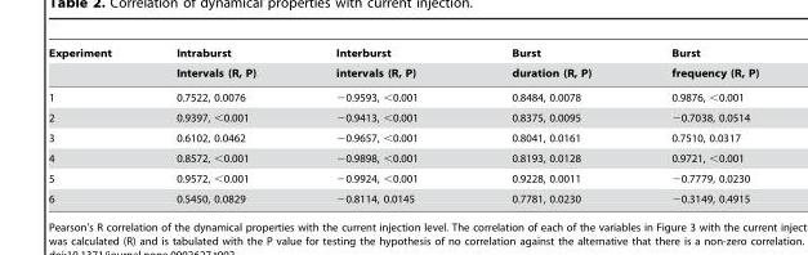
<table><thead><tr><td rowspan="2">Experiment</td><td rowspan="2">Intraburst Intervals (R, P)</td><td rowspan="2">Interburst intervals (R, P)</td><td rowspan="2">Burst duration (R, P)</td><td rowspan="2">Burst frequency (R, P)</td></tr><tr></tr></thead><tbody><tr><td>1</td><td>0.7522, 0.0076</td><td>−0.9593, &lt;0.001</td><td>0.8484, 0.0078</td><td>0.9876, &lt;0.001</td></tr><tr><td>2</td><td>0.9397, &lt;0.001</td><td>−0.9413, &lt;0.001</td><td>0.8375, 0.0095</td><td>−0.7038, 0.0514</td></tr><tr><td>3</td><td>0.6102, 0.0462</td><td>−0.9657, &lt;0.001</td><td>0.8041, 0.0161</td><td>0.7510, 0.0317</td></tr><tr><td>4</td><td>0.8572, &lt;0.001</td><td>−0.9898, &lt;0.001</td><td>0.8193, 0.0128</td><td>0.9721, &lt;0.001</td></tr><tr><td>5</td><td>0.9572, &lt;0.001</td><td>−0.9924, &lt;0.001</td><td>0.9228, 0.0011</td><td>−0.7779, 0.0230</td></tr><tr><td>6</td><td>0.5450, 0.0829</td><td>−0.8114, 0.0145</td><td>0.7781, 0.0230</td><td>−0.3149, 0.4915</td></tr></tbody></table>